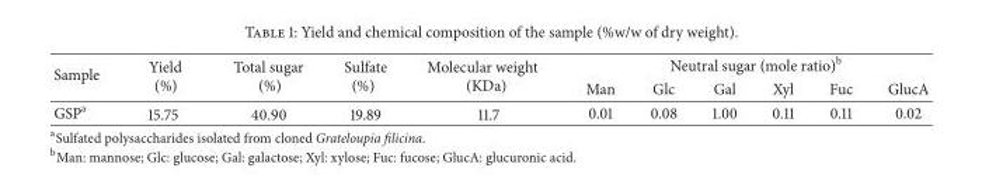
<table><thead><tr><td rowspan="2">Sample</td><td rowspan="2">Yield (%)</td><td rowspan="2">Total sugar (%)</td><td rowspan="2">Sulfate (%)</td><td rowspan="2">Molecular weight (KDa)</td><td colspan="6">Neutral sugar (mole ratio)<sup>b</sup></td></tr><tr><td>Man</td><td>Glc</td><td>Gal</td><td>Xyl</td><td>Fuc</td><td>GlucA</td></tr></thead><tbody><tr><td>GSP<sup>a</sup></td><td>15.75</td><td>40.90</td><td>19.89</td><td>11.7</td><td>0.01</td><td>0.08</td><td>1.00</td><td>0.11</td><td>0.11</td><td>0.02</td></tr></tbody></table>